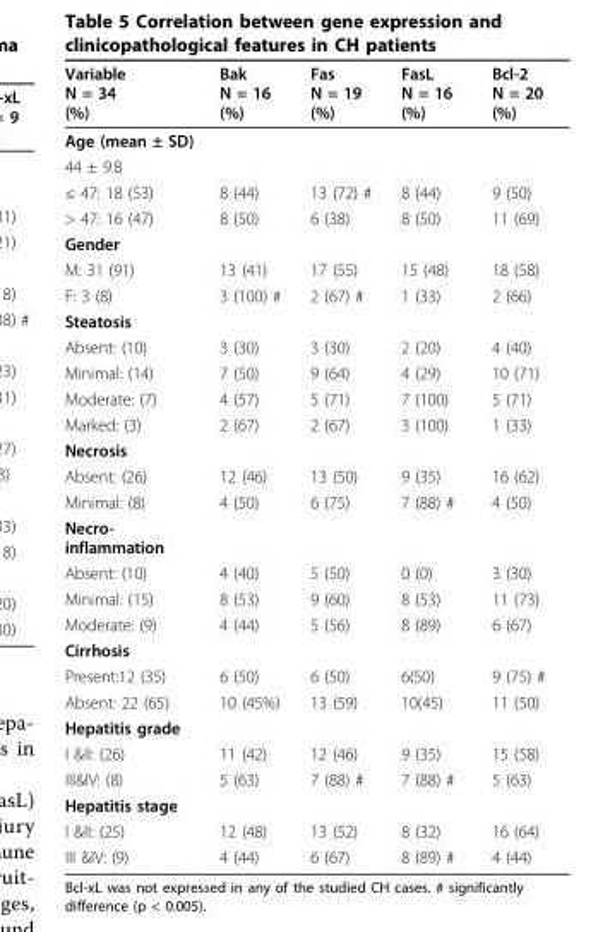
<table><thead><tr><td>Variable N = 34 (%)</td><td>Bak N = 16 (%)</td><td>Fas N = 19 (%)</td><td>FasL N = 16 (%)</td><td>Bcl-2 N = 20 (%)</td></tr></thead><tbody><tr><td colspan="5">Age (mean ± SD)</td></tr><tr><td colspan="5">44 ± 9.8</td></tr><tr><td>≤ 47: 18 (53)</td><td>8 (44)</td><td>13 (72) #</td><td>8 (44)</td><td>9 (50)</td></tr><tr><td>&gt; 47: 16 (47)</td><td>8 (50)</td><td>6 (38)</td><td>8 (50)</td><td>11 (69)</td></tr><tr><td colspan="5">Gender</td></tr><tr><td>M: 31 (91)</td><td>13 (41)</td><td>17 (55)</td><td>15 (48)</td><td>18 (58)</td></tr><tr><td>F: 3 (8)</td><td>3 (100) #</td><td>2 (67) #</td><td>1 (33)</td><td>2 (66)</td></tr><tr><td colspan="5">Steatosis</td></tr><tr><td>Absent: (10)</td><td>3 (30)</td><td>3 (30)</td><td>2 (20)</td><td>4 (40)</td></tr><tr><td>Minimal: (14)</td><td>7 (50)</td><td>9 (64)</td><td>4 (29)</td><td>10 (71)</td></tr><tr><td>Moderate: (7)</td><td>4 (57)</td><td>5 (71)</td><td>7 (100)</td><td>5 (71)</td></tr><tr><td>Marked: (3)</td><td>2 (67)</td><td>2 (67)</td><td>3 (100)</td><td>1 (33)</td></tr><tr><td colspan="5">Necrosis</td></tr><tr><td>Absent: (26)</td><td>12 (46)</td><td>13 (50)</td><td>9 (35)</td><td>16 (62)</td></tr><tr><td>Minimal: (8)</td><td>4 (50)</td><td>6 (75)</td><td>7 (88) #</td><td>4 (50)</td></tr><tr><td colspan="5">Necro- inflammation</td></tr><tr><td>Absent: (10)</td><td>4 (40)</td><td>5 (50)</td><td>0 (0)</td><td>3 (30)</td></tr><tr><td>Minimal: (15)</td><td>8 (53)</td><td>9 (60)</td><td>8 (53)</td><td>11 (73)</td></tr><tr><td>Moderate: (9)</td><td>4 (44)</td><td>5 (56)</td><td>8 (89)</td><td>6 (67)</td></tr><tr><td colspan="5">Cirrhosis</td></tr><tr><td>Present:12 (35)</td><td>6 (50)</td><td>6 (50)</td><td>6(50)</td><td>9 (75) #</td></tr><tr><td>Absent: 22 (65)</td><td>10 (45%)</td><td>13 (59)</td><td>10(45)</td><td>11 (50)</td></tr><tr><td colspan="5">Hepatitis grade</td></tr><tr><td>I &amp;II: (26)</td><td>11 (42)</td><td>12 (46)</td><td>9 (35)</td><td>15 (58)</td></tr><tr><td>III&amp;IV: (8)</td><td>5 (63)</td><td>7 (88) #</td><td>7 (88) #</td><td>5 (63)</td></tr><tr><td colspan="5">Hepatitis stage</td></tr><tr><td>I &amp;II: (25)</td><td>12 (48)</td><td>13 (52)</td><td>8 (32)</td><td>16 (64)</td></tr><tr><td>III &amp;IV: (9)</td><td>4 (44)</td><td>6 (67)</td><td>8 (89) #</td><td>4 (44)</td></tr></tbody></table>